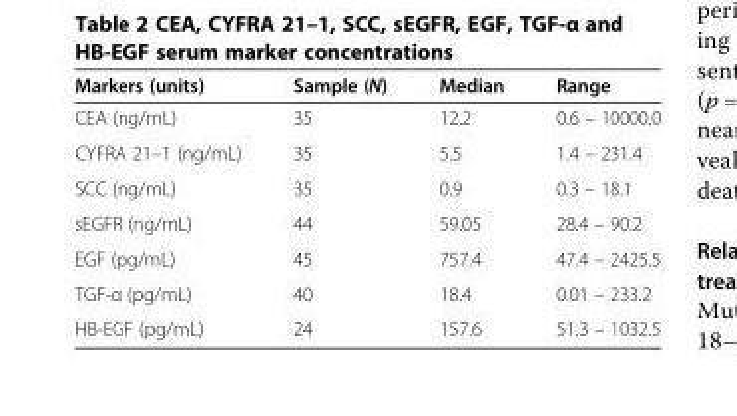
<table><thead><tr><td>Markers (units)</td><td>Sample (N)</td><td>Median</td><td>Range</td></tr></thead><tbody><tr><td>CEA (ng/mL)</td><td>35</td><td>12.2</td><td>0.6 – 10000.0</td></tr><tr><td>CYFRA 21–1 (ng/mL)</td><td>35</td><td>5.5</td><td>1.4 – 231.4</td></tr><tr><td>SCC (ng/mL)</td><td>35</td><td>0.9</td><td>0.3 – 18.1</td></tr><tr><td>sEGFR (ng/mL)</td><td>44</td><td>59.05</td><td>28.4 – 90.2</td></tr><tr><td>EGF (pg/mL)</td><td>45</td><td>757.4</td><td>47.4 – 2425.5</td></tr><tr><td>TGF-α (pg/mL)</td><td>40</td><td>18.4</td><td>0.01 – 233.2</td></tr><tr><td>HB-EGF (pg/mL)</td><td>24</td><td>157.6</td><td>51.3 – 1032.5</td></tr></tbody></table>